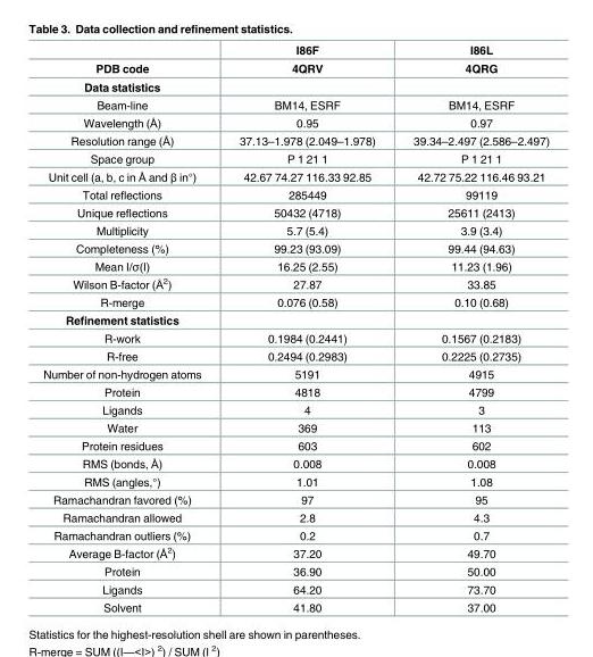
<table><thead><tr><td rowspan="2">PDB code</td><td rowspan="2">I86F 4QRV</td><td rowspan="2">I86L 4QRG</td></tr><tr></tr></thead><tbody><tr><td colspan="3">Data statistics</td></tr><tr><td>Beam-line</td><td>BM14, ESRF</td><td>BM14, ESRF</td></tr><tr><td>Wavelength (Å)</td><td>0.95</td><td>0.97</td></tr><tr><td>Resolution range (Å)</td><td>37.13–1.978 (2.049–1.978)</td><td>39.34–2.497 (2.586–2.497)</td></tr><tr><td>Space group</td><td>P 1 21 1</td><td>P 1 21 1</td></tr><tr><td>Unit cell (a, b, c in Å and β in°)</td><td>42.67 74.27 116.33 92.85</td><td>42.72 75.22 116.46 93.21</td></tr><tr><td>Total reflections</td><td>285449</td><td>99119</td></tr><tr><td>Unique reflections</td><td>50432 (4718)</td><td>25611 (2413)</td></tr><tr><td>Multiplicity</td><td>5.7 (5.4)</td><td>3.9 (3.4)</td></tr><tr><td>Completeness (%)</td><td>99.23 (93.09)</td><td>99.44 (94.63)</td></tr><tr><td>Mean I/σ(I)</td><td>16.25 (2.55)</td><td>11.23 (1.96)</td></tr><tr><td>Wilson B-factor (Å<sup>2</sup>)</td><td>27.87</td><td>33.85</td></tr><tr><td>R-merge</td><td>0.076 (0.58)</td><td>0.10 (0.68)</td></tr><tr><td colspan="3">Refinement statistics</td></tr><tr><td>R-work</td><td>0.1984 (0.2441)</td><td>0.1567 (0.2183)</td></tr><tr><td>R-free</td><td>0.2494 (0.2983)</td><td>0.2225 (0.2735)</td></tr><tr><td>Number of non-hydrogen atoms</td><td>5191</td><td>4915</td></tr><tr><td>Protein</td><td>4818</td><td>4799</td></tr><tr><td>Ligands</td><td>4</td><td>3</td></tr><tr><td>Water</td><td>369</td><td>113</td></tr><tr><td>Protein residues</td><td>603</td><td>602</td></tr><tr><td>RMS (bonds, Å)</td><td>0.008</td><td>0.008</td></tr><tr><td>RMS (angles,°)</td><td>1.01</td><td>1.08</td></tr><tr><td>Ramachandran favored (%)</td><td>97</td><td>95</td></tr><tr><td>Ramachandran allowed</td><td>2.8</td><td>4.3</td></tr><tr><td>Ramachandran outliers (%)</td><td>0.2</td><td>0.7</td></tr><tr><td>Average B-factor (Å<sup>2</sup>)</td><td>37.20</td><td>49.70</td></tr><tr><td>Protein</td><td>36.90</td><td>50.00</td></tr><tr><td>Ligands</td><td>64.20</td><td>73.70</td></tr><tr><td>Solvent</td><td>41.80</td><td>37.00</td></tr></tbody></table>